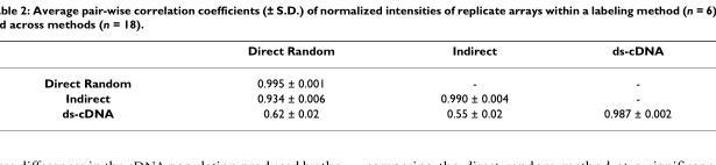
<table><thead><tr><td></td><td>Direct Random</td><td>Indirect</td><td>ds-cDNA</td></tr></thead><tbody><tr><td>Direct Random</td><td>0.995 ± 0.001</td><td>-</td><td>-</td></tr><tr><td>Indirect</td><td>0.934 ± 0.006</td><td>0.990 ± 0.004</td><td>-</td></tr><tr><td>ds-cDNA</td><td>0.62 ± 0.02</td><td>0.55 ± 0.02</td><td>0.987 ± 0.002</td></tr></tbody></table>